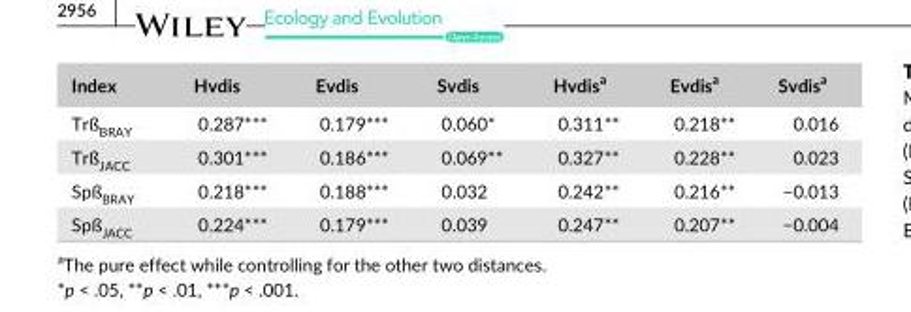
<table><thead><tr><td>Index</td><td>Hvdis</td><td>Evdis</td><td>Svdis</td><td>Hvdis<sup>a</sup></td><td>Evdis<sup>a</sup></td><td>Svdis<sup>a</sup></td></tr></thead><tbody><tr><td>Trß<sub>BRAY</sub></td><td>0.287***</td><td>0.179***</td><td>0.060*</td><td>0.311**</td><td>0.218**</td><td>0.016</td></tr><tr><td>Trß<sub>JACC</sub></td><td>0.301***</td><td>0.186***</td><td>0.069**</td><td>0.327**</td><td>0.228**</td><td>0.023</td></tr><tr><td>Spß<sub>BRAY</sub></td><td>0.218***</td><td>0.188***</td><td>0.032</td><td>0.242**</td><td>0.216**</td><td>−0.013</td></tr><tr><td>Spß<sub>JACC</sub></td><td>0.224***</td><td>0.179***</td><td>0.039</td><td>0.247**</td><td>0.207**</td><td>−0.004</td></tr></tbody></table>